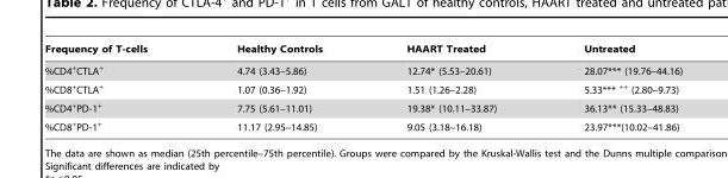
<table><thead><tr><td>Frequency of T-cells</td><td>Healthy Controls</td><td>HAART Treated</td><td>Untreated</td></tr></thead><tbody><tr><td>%CD4<sup>+</sup>CTLA<sup>+</sup></td><td>4.74 (3.43–5.86)</td><td>12.74* (5.53–20.61)</td><td>28.07*** (19.76–44.16)</td></tr><tr><td>%CD8<sup>+</sup>CTLA<sup>+</sup></td><td>1.07 (0.36–1.92)</td><td>1.51 (1.26–2.28)</td><td>5.33*** ++ (2.80–9.73)</td></tr><tr><td>%CD4<sup>+</sup>PD-1<sup>+</sup></td><td>7.75 (5.61–11.01)</td><td>19.38* (10.11–33.87)</td><td>36.13** (15.33–48.83)</td></tr><tr><td>%CD8<sup>+</sup>PD-1<sup>+</sup></td><td>11.17 (2.95–14.85)</td><td>9.05 (3.18–16.18)</td><td>23.97***(10.02–41.86)</td></tr></tbody></table>